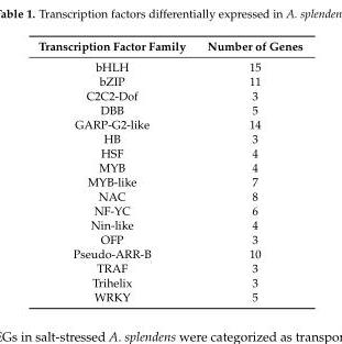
<table><thead><tr><td>Transcription Factor Family</td><td>Number of Genes</td></tr></thead><tbody><tr><td>bHLH</td><td>15</td></tr><tr><td>bZIP</td><td>11</td></tr><tr><td>C2C2-Dof</td><td>3</td></tr><tr><td>DBB</td><td>5</td></tr><tr><td>GARP-G2-like</td><td>14</td></tr><tr><td>HB</td><td>3</td></tr><tr><td>HSF</td><td>4</td></tr><tr><td>MYB</td><td>4</td></tr><tr><td>MYB-like</td><td>7</td></tr><tr><td>NAC</td><td>8</td></tr><tr><td>NF-YC</td><td>6</td></tr><tr><td>Nin-like</td><td>4</td></tr><tr><td>OFP</td><td>3</td></tr><tr><td>Pseudo-ARR-B</td><td>10</td></tr><tr><td>TRAF</td><td>3</td></tr><tr><td>Trihelix</td><td>3</td></tr><tr><td>WRKY</td><td>5</td></tr></tbody></table>